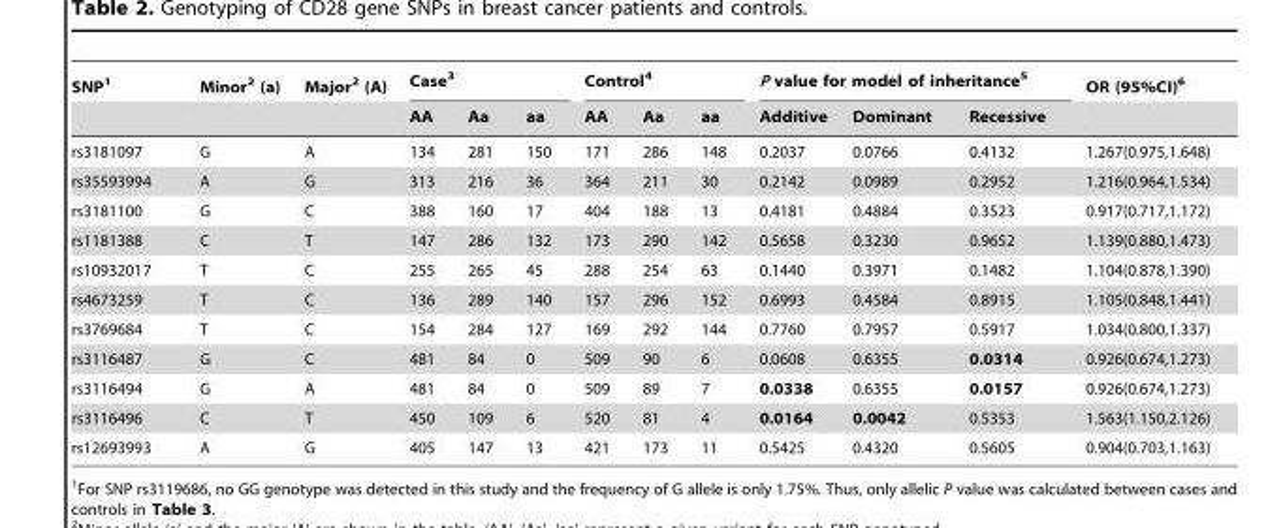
<table><thead><tr><td rowspan="2">SNP<sup>1</sup></td><td rowspan="2">Minor<sup>2</sup> (a)</td><td rowspan="2">Major<sup>2</sup> (A)</td><td colspan="3">Case<sup>3</sup></td><td colspan="3">Control<sup>4</sup></td><td colspan="3">P value for model of inheritance<sup>5</sup></td><td rowspan="2">OR (95%CI)<sup>6</sup></td></tr><tr><td>AA</td><td>Aa</td><td>aa</td><td>AA</td><td>Aa</td><td>aa</td><td>Additive</td><td>Dominant</td><td>Recessive</td></tr></thead><tbody><tr><td>rs3181097</td><td>G</td><td>A</td><td>134</td><td>281</td><td>150</td><td>171</td><td>286</td><td>148</td><td>0.2037</td><td>0.0766</td><td>0.4132</td><td>1.267(0.975,1.648)</td></tr><tr><td>rs35593994</td><td>A</td><td>G</td><td>313</td><td>216</td><td>36</td><td>364</td><td>211</td><td>30</td><td>0.2142</td><td>0.0989</td><td>0.2952</td><td>1.216(0.964,1.534)</td></tr><tr><td>rs3181100</td><td>G</td><td>C</td><td>388</td><td>160</td><td>17</td><td>404</td><td>188</td><td>13</td><td>0.4181</td><td>0.4884</td><td>0.3523</td><td>0.917(0.717,1.172)</td></tr><tr><td>rs1181388</td><td>C</td><td>T</td><td>147</td><td>286</td><td>132</td><td>173</td><td>290</td><td>142</td><td>0.5658</td><td>0.3230</td><td>0.9652</td><td>1.139(0.880,1.473)</td></tr><tr><td>rs10932017</td><td>T</td><td>C</td><td>255</td><td>265</td><td>45</td><td>288</td><td>254</td><td>63</td><td>0.1440</td><td>0.3971</td><td>0.1482</td><td>1.104(0.878,1.390)</td></tr><tr><td>rs4673259</td><td>T</td><td>C</td><td>136</td><td>289</td><td>140</td><td>157</td><td>296</td><td>152</td><td>0.6993</td><td>0.4584</td><td>0.8915</td><td>1.105(0.848,1.441)</td></tr><tr><td>rs3769684</td><td>T</td><td>C</td><td>154</td><td>284</td><td>127</td><td>169</td><td>292</td><td>144</td><td>0.7760</td><td>0.7957</td><td>0.5917</td><td>1.034(0.800,1.337)</td></tr><tr><td>rs3116487</td><td>G</td><td>C</td><td>481</td><td>84</td><td>0</td><td>509</td><td>90</td><td>6</td><td>0.0608</td><td>0.6355</td><td>0.0314</td><td>0.926(0.674,1.273)</td></tr><tr><td>rs3116494</td><td>G</td><td>A</td><td>481</td><td>84</td><td>0</td><td>509</td><td>89</td><td>7</td><td>0.0338</td><td>0.6355</td><td>0.0157</td><td>0.926(0.674,1.273)</td></tr><tr><td>rs3116496</td><td>C</td><td>T</td><td>450</td><td>109</td><td>6</td><td>520</td><td>81</td><td>4</td><td>0.0164</td><td>0.0042</td><td>0.5353</td><td>1.563(1.150,2.126)</td></tr><tr><td>rs12693993</td><td>A</td><td>G</td><td>405</td><td>147</td><td>13</td><td>421</td><td>173</td><td>11</td><td>0.5425</td><td>0.4320</td><td>0.5605</td><td>0.904(0.703,1.163)</td></tr></tbody></table>